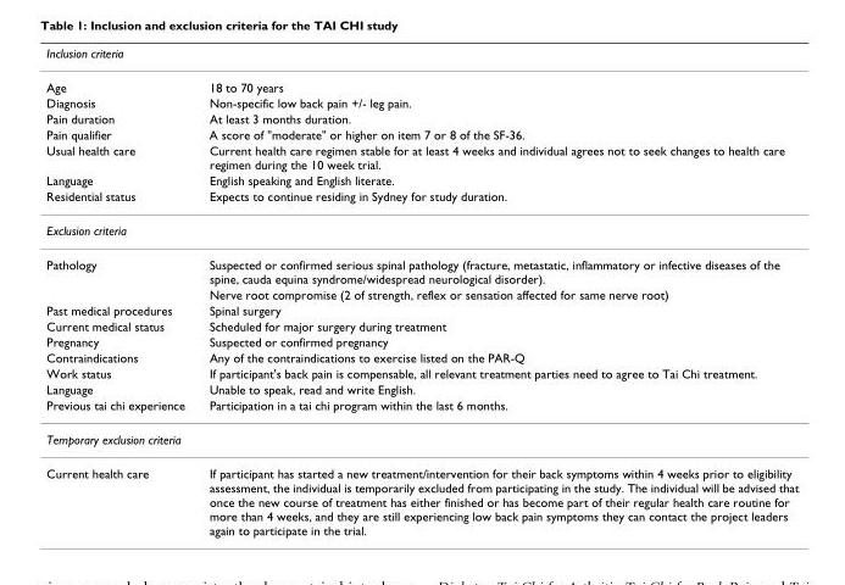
<table><thead><tr><td colspan="2">Inclusion criteria</td></tr><tr><td>Age</td><td>18 to 70 years</td></tr></thead><tbody><tr><td>Diagnosis</td><td>Non-specific low back pain +/- leg pain.</td></tr><tr><td>Pain duration</td><td>At least 3 months duration.</td></tr><tr><td>Pain qualifier</td><td>A score of &quot;moderate&quot; or higher on item 7 or 8 of the SF-36.</td></tr><tr><td>Usual health care</td><td>Current health care regimen stable for at least 4 weeks and individual agrees not to seek changes to health care regimen during the 10 week trial.</td></tr><tr><td>Language</td><td>English speaking and English literate.</td></tr><tr><td>Residential status</td><td>Expects to continue residing in Sydney for study duration.</td></tr><tr><td colspan="2">Exclusion criteria</td></tr><tr><td rowspan="2">Pathology</td><td>Suspected or confirmed serious spinal pathology (fracture, metastatic, inflammatory or infective diseases of the spine, cauda equina syndrome/widespread neurological disorder).</td></tr><tr><td>Nerve root compromise (2 of strength, reflex or sensation affected for same nerve root)</td></tr><tr><td>Past medical procedures</td><td>Spinal surgery</td></tr><tr><td>Current medical status</td><td>Scheduled for major surgery during treatment</td></tr><tr><td>Pregnancy</td><td>Suspected or confirmed pregnancy</td></tr><tr><td>Contraindications</td><td>Any of the contraindications to exercise listed on the PAR-Q</td></tr><tr><td>Work status</td><td>If participant&#x27;s back pain is compensable, all relevant treatment parties need to agree to Tai Chi treatment.</td></tr><tr><td>Language</td><td>Unable to speak, read and write English.</td></tr><tr><td>Previous tai chi experience</td><td>Participation in a tai chi program within the last 6 months.</td></tr><tr><td colspan="2">Temporary exclusion criteria</td></tr><tr><td>Current health care</td><td>If participant has started a new treatment/intervention for their back symptoms within 4 weeks prior to eligibility assessment, the individual is temporarily excluded from participating in the study. The individual will be advised that once the new course of treatment has either finished or has become part of their regular health care routine for more than 4 weeks, and they are still experiencing low back pain symptoms they can contact the project leaders again to participate in the trial.</td></tr></tbody></table>